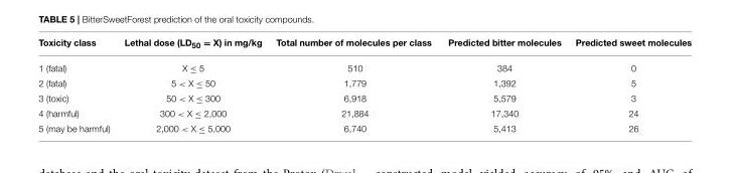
<table><thead><tr><td>Toxicity class</td><td>Lethal dose (LD<sub>50</sub> = X) in mg/kg</td><td>Total number of molecules per class</td><td>Predicted bitter molecules</td><td>Predicted sweet molecules</td></tr></thead><tbody><tr><td>1 (fatal)</td><td>X ≤ 5</td><td>510</td><td>384</td><td>0</td></tr><tr><td>2 (fatal)</td><td>5 &lt; X ≤ 50</td><td>1,779</td><td>1,392</td><td>5</td></tr><tr><td>3 (toxic)</td><td>50 &lt; X ≤ 300</td><td>6,918</td><td>5,579</td><td>3</td></tr><tr><td>4 (harmful)</td><td>300 &lt; X ≤ 2,000</td><td>21,884</td><td>17,340</td><td>24</td></tr><tr><td>5 (may be harmful)</td><td>2,000 &lt; X ≤ 5,000</td><td>6,740</td><td>5,413</td><td>26</td></tr></tbody></table>